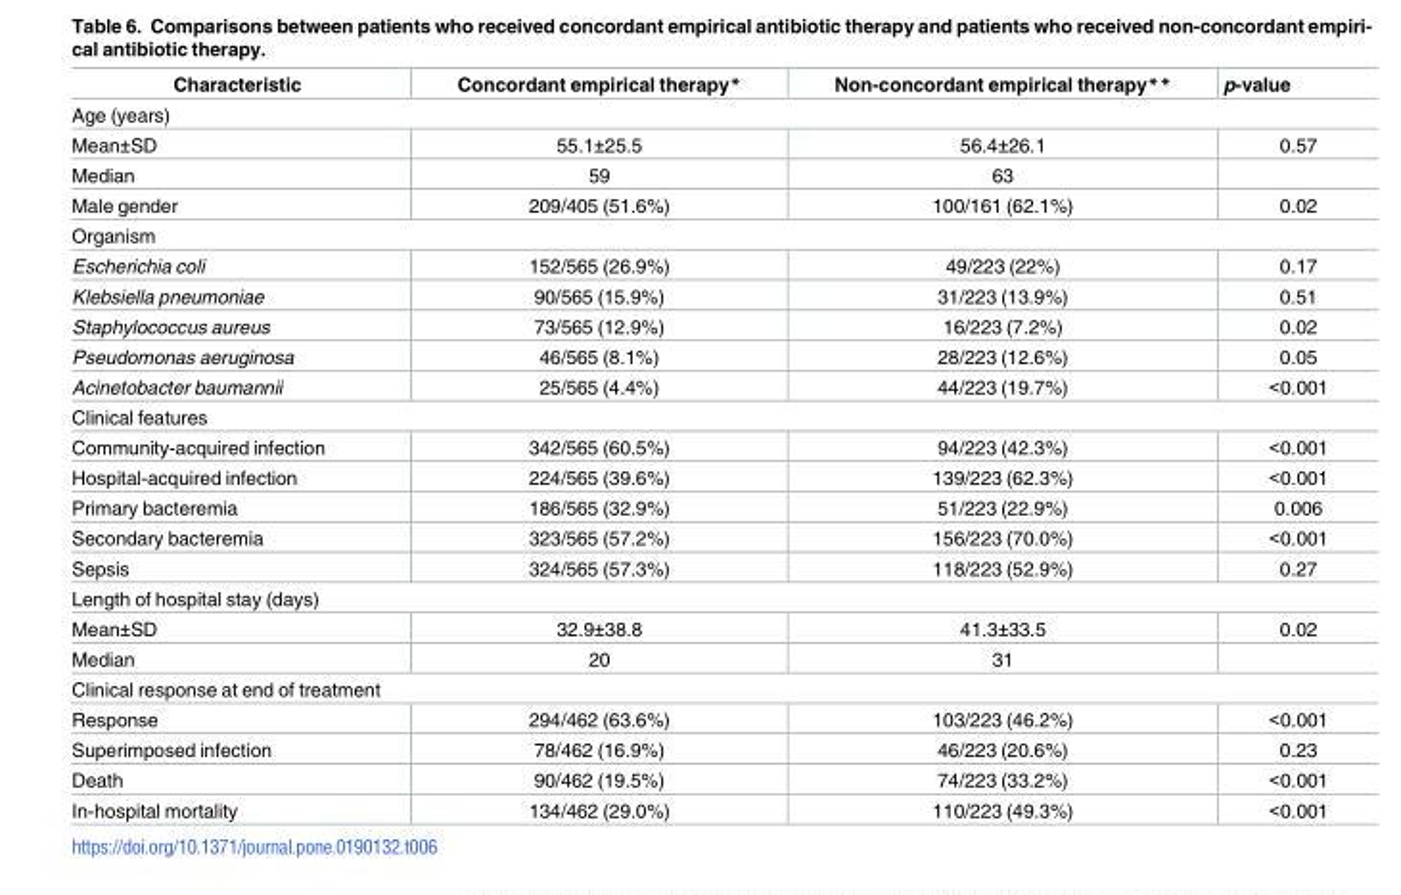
<table><thead><tr><td>Characteristic</td><td>Concordant empirical therapy*</td><td>Non-concordant empirical therapy**</td><td>p-value</td></tr></thead><tbody><tr><td colspan="4">Age (years)</td></tr><tr><td>Mean±SD</td><td>55.1±25.5</td><td>56.4±26.1</td><td>0.57</td></tr><tr><td>Median</td><td>59</td><td>63</td><td></td></tr><tr><td>Male gender</td><td>209/405 (51.6%)</td><td>100/161 (62.1%)</td><td>0.02</td></tr><tr><td colspan="4">Organism</td></tr><tr><td>Escherichia coli</td><td>152/565 (26.9%)</td><td>49/223 (22%)</td><td>0.17</td></tr><tr><td>Klebsiella pneumoniae</td><td>90/565 (15.9%)</td><td>31/223 (13.9%)</td><td>0.51</td></tr><tr><td>Staphylococcus aureus</td><td>73/565 (12.9%)</td><td>16/223 (7.2%)</td><td>0.02</td></tr><tr><td>Pseudomonas aeruginosa</td><td>46/565 (8.1%)</td><td>28/223 (12.6%)</td><td>0.05</td></tr><tr><td>Acinetobacter baumannii</td><td>25/565 (4.4%)</td><td>44/223 (19.7%)</td><td>&lt;0.001</td></tr><tr><td colspan="4">Clinical features</td></tr><tr><td>Community-acquired infection</td><td>342/565 (60.5%)</td><td>94/223 (42.3%)</td><td>&lt;0.001</td></tr><tr><td>Hospital-acquired infection</td><td>224/565 (39.6%)</td><td>139/223 (62.3%)</td><td>&lt;0.001</td></tr><tr><td>Primary bacteremia</td><td>186/565 (32.9%)</td><td>51/223 (22.9%)</td><td>0.006</td></tr><tr><td>Secondary bacteremia</td><td>323/565 (57.2%)</td><td>156/223 (70.0%)</td><td>&lt;0.001</td></tr><tr><td>Sepsis</td><td>324/565 (57.3%)</td><td>118/223 (52.9%)</td><td>0.27</td></tr><tr><td colspan="4">Length of hospital stay (days)</td></tr><tr><td>Mean±SD</td><td>32.9±38.8</td><td>41.3±33.5</td><td>0.02</td></tr><tr><td>Median</td><td>20</td><td>31</td><td></td></tr><tr><td colspan="4">Clinical response at end of treatment</td></tr><tr><td>Response</td><td>294/462 (63.6%)</td><td>103/223 (46.2%)</td><td>&lt;0.001</td></tr><tr><td>Superimposed infection</td><td>78/462 (16.9%)</td><td>46/223 (20.6%)</td><td>0.23</td></tr><tr><td>Death</td><td>90/462 (19.5%)</td><td>74/223 (33.2%)</td><td>&lt;0.001</td></tr><tr><td>In-hospital mortality</td><td>134/462 (29.0%)</td><td>110/223 (49.3%)</td><td>&lt;0.001</td></tr></tbody></table>